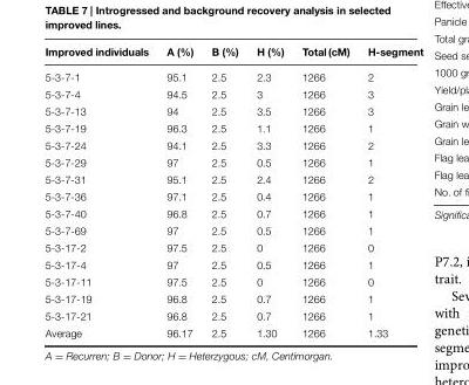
<table><thead><tr><td>Improved individuals</td><td>A (%)</td><td>B (%)</td><td>H (%)</td><td>Total (cM)</td><td>H-segment</td></tr></thead><tbody><tr><td>5-3-7-1</td><td>95.1</td><td>2.5</td><td>2.3</td><td>1266</td><td>2</td></tr><tr><td>5-3-7-4</td><td>94.5</td><td>2.5</td><td>3</td><td>1266</td><td>3</td></tr><tr><td>5-3-7-13</td><td>94</td><td>2.5</td><td>3.5</td><td>1266</td><td>3</td></tr><tr><td>5-3-7-19</td><td>96.3</td><td>2.5</td><td>1.1</td><td>1266</td><td>1</td></tr><tr><td>5-3-7-24</td><td>94.1</td><td>2.5</td><td>3.3</td><td>1266</td><td>2</td></tr><tr><td>5-3-7-29</td><td>97</td><td>2.5</td><td>0.5</td><td>1266</td><td>1</td></tr><tr><td>5-3-7-31</td><td>95.1</td><td>2.5</td><td>2.4</td><td>1266</td><td>2</td></tr><tr><td>5-3-7-36</td><td>97.1</td><td>2.5</td><td>0.4</td><td>1266</td><td>1</td></tr><tr><td>5-3-7-40</td><td>96.8</td><td>2.5</td><td>0.7</td><td>1266</td><td>1</td></tr><tr><td>5-3-7-69</td><td>97</td><td>2.5</td><td>0.5</td><td>1266</td><td>1</td></tr><tr><td>5-3-17-2</td><td>97.5</td><td>2.5</td><td>0</td><td>1266</td><td>0</td></tr><tr><td>5-3-17-4</td><td>97</td><td>2.5</td><td>0.5</td><td>1266</td><td>1</td></tr><tr><td>5-3-17-11</td><td>97.5</td><td>2.5</td><td>0</td><td>1266</td><td>0</td></tr><tr><td>5-3-17-19</td><td>96.8</td><td>2.5</td><td>0.7</td><td>1266</td><td>1</td></tr><tr><td>5-3-17-21</td><td>96.8</td><td>2.5</td><td>0.7</td><td>1266</td><td>1</td></tr><tr><td>Average</td><td>96.17</td><td>2.5</td><td>1.30</td><td>1266</td><td>1.33</td></tr></tbody></table>